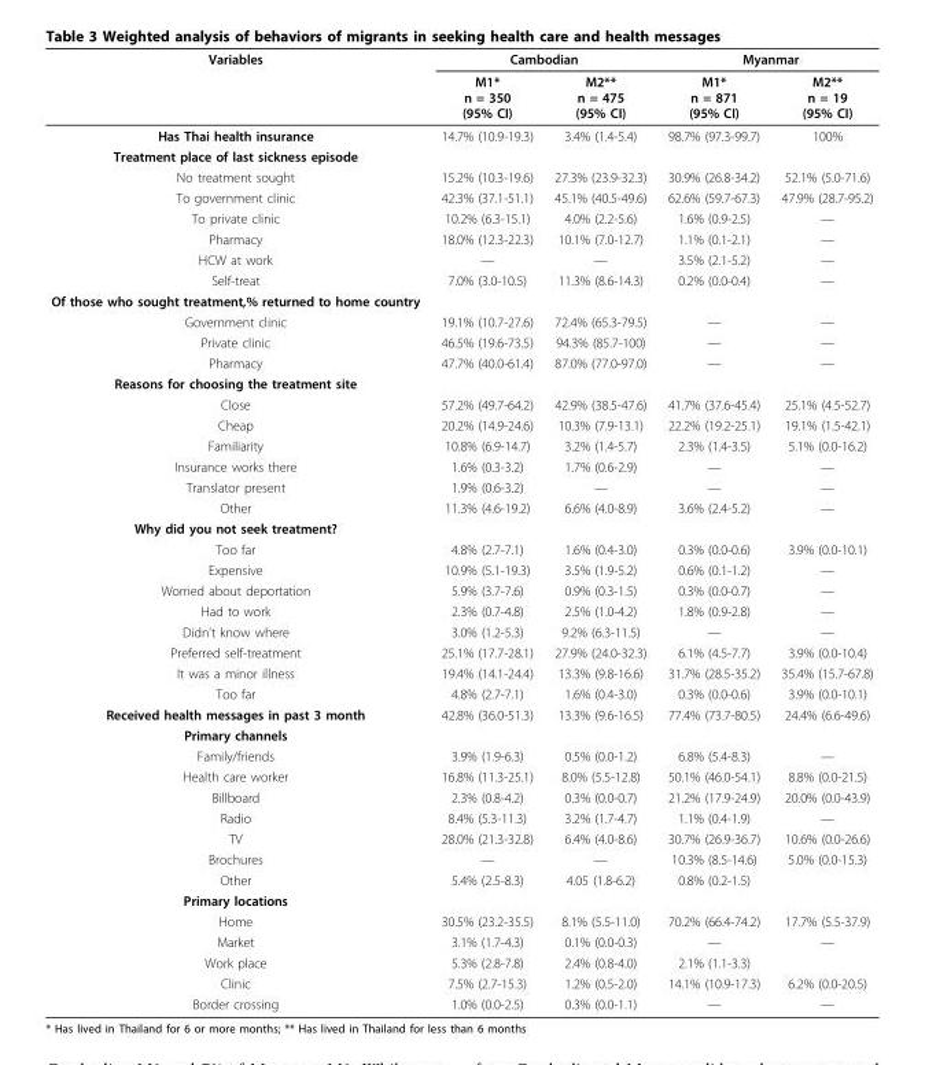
<table><thead><tr><td rowspan="2">Variables</td><td colspan="2">Cambodian</td><td colspan="2">Myanmar</td></tr><tr><td>M1* n = 350 (95% CI)</td><td>M2** n = 475 (95% CI)</td><td>M1* n = 871 (95% CI)</td><td>M2** n = 19 (95% CI)</td></tr></thead><tbody><tr><td>Has Thai health insurance</td><td>14.7% (10.9-19.3)</td><td>3.4% (1.4-5.4)</td><td>98.7% (97.3-99.7)</td><td>100%</td></tr><tr><td colspan="5">Treatment place of last sickness episode</td></tr><tr><td>No treatment sought</td><td>15.2% (10.3-19.6)</td><td>27.3% (23.9-32.3)</td><td>30.9% (26.8-34.2)</td><td>52.1% (5.0-71.6)</td></tr><tr><td>To government clinic</td><td>42.3% (37.1-51.1)</td><td>45.1% (40.5-49.6)</td><td>62.6% (59.7-67.3)</td><td>47.9% (28.7-95.2)</td></tr><tr><td>To private clinic</td><td>10.2% (6.3-15.1)</td><td>4.0% (2.2-5.6)</td><td>1.6% (0.9-2.5)</td><td>—</td></tr><tr><td>Pharmacy</td><td>18.0% (12.3-22.3)</td><td>10.1% (7.0-12.7)</td><td>1.1% (0.1-2.1)</td><td>—</td></tr><tr><td>HCW at work</td><td>—</td><td>—</td><td>3.5% (2.1-5.2)</td><td>—</td></tr><tr><td>Self-treat</td><td>7.0% (3.0-10.5)</td><td>11.3% (8.6-14.3)</td><td>0.2% (0.0-0.4)</td><td>—</td></tr><tr><td colspan="5">Of those who sought treatment,% returned to home country</td></tr><tr><td>Government clinic</td><td>19.1% (10.7-27.6)</td><td>72.4% (65.3-79.5)</td><td>—</td><td>—</td></tr><tr><td>Private clinic</td><td>46.5% (19.6-73.5)</td><td>94.3% (85.7-100)</td><td>—</td><td>—</td></tr><tr><td>Pharmacy</td><td>47.7% (40.0-61.4)</td><td>87.0% (77.0-97.0)</td><td>—</td><td>—</td></tr><tr><td colspan="5">Reasons for choosing the treatment site</td></tr><tr><td>Close</td><td>57.2% (49.7-64.2)</td><td>42.9% (38.5-47.6)</td><td>41.7% (37.6-45.4)</td><td>25.1% (4.5-52.7)</td></tr><tr><td>Cheap</td><td>20.2% (14.9-24.6)</td><td>10.3% (7.9-13.1)</td><td>22.2% (19.2-25.1)</td><td>19.1% (1.5-42.1)</td></tr><tr><td>Familiarity</td><td>10.8% (6.9-14.7)</td><td>3.2% (1.4-5.7)</td><td>2.3% (1.4-3.5)</td><td>5.1% (0.0-16.2)</td></tr><tr><td>Insurance works there</td><td>1.6% (0.3-3.2)</td><td>1.7% (0.6-2.9)</td><td>—</td><td>—</td></tr><tr><td>Translator present</td><td>1.9% (0.6-3.2)</td><td>—</td><td>—</td><td>—</td></tr><tr><td>Other</td><td>11.3% (4.6-19.2)</td><td>6.6% (4.0-8.9)</td><td>3.6% (2.4-5.2)</td><td>—</td></tr><tr><td colspan="5">Why did you not seek treatment?</td></tr><tr><td>Too far</td><td>4.8% (2.7-7.1)</td><td>1.6% (0.4-3.0)</td><td>0.3% (0.0-0.6)</td><td>3.9% (0.0-10.1)</td></tr><tr><td>Expensive</td><td>10.9% (5.1-19.3)</td><td>3.5% (1.9-5.2)</td><td>0.6% (0.1-1.2)</td><td>—</td></tr><tr><td>Worried about deportation</td><td>5.9% (3.7-7.6)</td><td>0.9% (0.3-1.5)</td><td>0.3% (0.0-0.7)</td><td>—</td></tr><tr><td>Had to work</td><td>2.3% (0.7-4.8)</td><td>2.5% (1.0-4.2)</td><td>1.8% (0.9-2.8)</td><td>—</td></tr><tr><td>Didn’t know where</td><td>3.0% (1.2-5.3)</td><td>9.2% (6.3-11.5)</td><td>—</td><td>—</td></tr><tr><td>Preferred self-treatment</td><td>25.1% (17.7-28.1)</td><td>27.9% (24.0-32.3)</td><td>6.1% (4.5-7.7)</td><td>3.9% (0.0-10.4)</td></tr><tr><td>It was a minor illness</td><td>19.4% (14.1-24.4)</td><td>13.3% (9.8-16.6)</td><td>31.7% (28.5-35.2)</td><td>35.4% (15.7-67.8)</td></tr><tr><td>Too far</td><td>4.8% (2.7-7.1)</td><td>1.6% (0.4-3.0)</td><td>0.3% (0.0-0.6)</td><td>3.9% (0.0-10.1)</td></tr><tr><td>Received health messages in past 3 month</td><td>42.8% (36.0-51.3)</td><td>13.3% (9.6-16.5)</td><td>77.4% (73.7-80.5)</td><td>24.4% (6.6-49.6)</td></tr><tr><td colspan="5">Primary channels</td></tr><tr><td>Family/friends</td><td>3.9% (1.9-6.3)</td><td>0.5% (0.0-1.2)</td><td>6.8% (5.4-8.3)</td><td>—</td></tr><tr><td>Health care worker</td><td>16.8% (11.3-25.1)</td><td>8.0% (5.5-12.8)</td><td>50.1% (46.0-54.1)</td><td>8.8% (0.0-21.5)</td></tr><tr><td>Billboard</td><td>2.3% (0.8-4.2)</td><td>0.3% (0.0-0.7)</td><td>21.2% (17.9-24.9)</td><td>20.0% (0.0-43.9)</td></tr><tr><td>Radio</td><td>8.4% (5.3-11.3)</td><td>3.2% (1.7-4.7)</td><td>1.1% (0.4-1.9)</td><td>—</td></tr><tr><td>TV</td><td>28.0% (21.3-32.8)</td><td>6.4% (4.0-8.6)</td><td>30.7% (26.9-36.7)</td><td>10.6% (0.0-26.6)</td></tr><tr><td>Brochures</td><td>—</td><td>—</td><td>10.3% (8.5-14.6)</td><td>5.0% (0.0-15.3)</td></tr><tr><td>Other</td><td>5.4% (2.5-8.3)</td><td>4.05 (1.8-6.2)</td><td>0.8% (0.2-1.5)</td><td></td></tr><tr><td colspan="5">Primary locations</td></tr><tr><td>Home</td><td>30.5% (23.2-35.5)</td><td>8.1% (5.5-11.0)</td><td>70.2% (66.4-74.2)</td><td>17.7% (5.5-37.9)</td></tr><tr><td>Market</td><td>3.1% (1.7-4.3)</td><td>0.1% (0.0-0.3)</td><td>—</td><td>—</td></tr><tr><td>Work place</td><td>5.3% (2.8-7.8)</td><td>2.4% (0.8-4.0)</td><td>2.1% (1.1-3.3)</td><td></td></tr><tr><td>Clinic</td><td>7.5% (2.7-15.3)</td><td>1.2% (0.5-2.0)</td><td>14.1% (10.9-17.3)</td><td>6.2% (0.0-20.5)</td></tr><tr><td>Border crossing</td><td>1.0% (0.0-2.5)</td><td>0.3% (0.0-1.1)</td><td>—</td><td>—</td></tr></tbody></table>